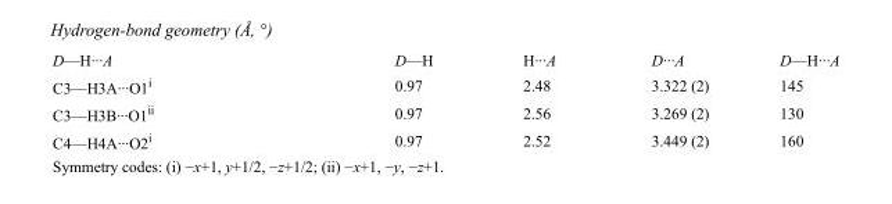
<table><tbody><tr><td>D—H···A</td><td>D—H</td><td>H···A</td><td>D···A</td><td>D—H···A</td></tr><tr><td>C3—H3A···O1<sup>i</sup></td><td>0.97</td><td>2.48</td><td>3.322 (2)</td><td>145</td></tr><tr><td>C3—H3B···O1<sup>ii</sup></td><td>0.97</td><td>2.56</td><td>3.269 (2)</td><td>130</td></tr><tr><td>C4—H4A···O2<sup>i</sup></td><td>0.97</td><td>2.52</td><td>3.449 (2)</td><td>160</td></tr></tbody></table>